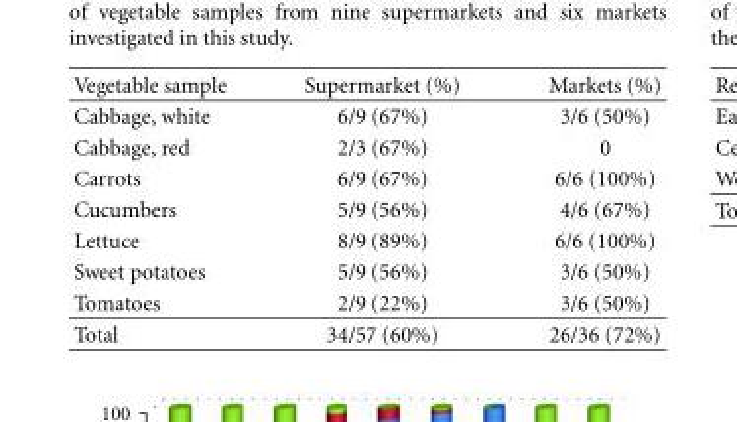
<table><thead><tr><td>Vegetable sample</td><td>Supermarket (%)</td><td>Markets (%)</td></tr></thead><tbody><tr><td>Cabbage, white</td><td>6/9 (67%)</td><td>3/6 (50%)</td></tr><tr><td>Cabbage, red</td><td>2/3 (67%)</td><td>0</td></tr><tr><td>Carrots</td><td>6/9 (67%)</td><td>6/6 (100%)</td></tr><tr><td>Cucumbers</td><td>5/9 (56%)</td><td>4/6 (67%)</td></tr><tr><td>Lettuce</td><td>8/9 (89%)</td><td>6/6 (100%)</td></tr><tr><td>Sweet potatoes</td><td>5/9 (56%)</td><td>3/6 (50%)</td></tr><tr><td>Tomatoes</td><td>2/9 (22%)</td><td>3/6 (50%)</td></tr><tr><td>Total</td><td>34/57 (60%)</td><td>26/36 (72%)</td></tr></tbody></table>